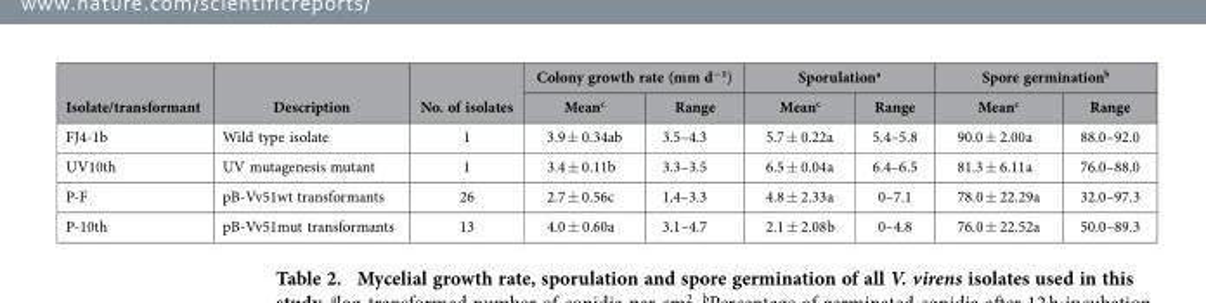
<table><thead><tr><td rowspan="2">Isolate/transformant</td><td rowspan="2">Description</td><td rowspan="2">No. of isolates</td><td colspan="2">Colony growth rate (mm d<sup>−1</sup>)</td><td colspan="2">Sporulation<sup>a</sup></td><td colspan="2">Spore germination<sup>b</sup></td></tr><tr><td>Mean<sup>c</sup></td><td>Range</td><td>Mean<sup>c</sup></td><td>Range</td><td>Mean<sup>c</sup></td><td>Range</td></tr></thead><tbody><tr><td>FJ4-1b</td><td>Wild type isolate</td><td>1</td><td>3.9 ± 0.34ab</td><td>3.5–4.3</td><td>5.7 ± 0.22a</td><td>5.4–5.8</td><td>90.0 ± 2.00a</td><td>88.0–92.0</td></tr><tr><td>UV10th</td><td>UV mutagenesis mutant</td><td>1</td><td>3.4 ± 0.11b</td><td>3.3–3.5</td><td>6.5 ± 0.04a</td><td>6.4–6.5</td><td>81.3 ± 6.11a</td><td>76.0–88.0</td></tr><tr><td>P-F</td><td>pB-Vv51wt transformants</td><td>26</td><td>2.7 ± 0.56c</td><td>1.4–3.3</td><td>4.8 ± 2.33a</td><td>0–7.1</td><td>78.0 ± 22.29a</td><td>32.0–97.3</td></tr><tr><td>P-10th</td><td>pB-Vv51mut transformants</td><td>13</td><td>4.0 ± 0.60a</td><td>3.1–4.7</td><td>2.1 ± 2.08b</td><td>0–4.8</td><td>76.0 ± 22.52a</td><td>50.0–89.3</td></tr></tbody></table>